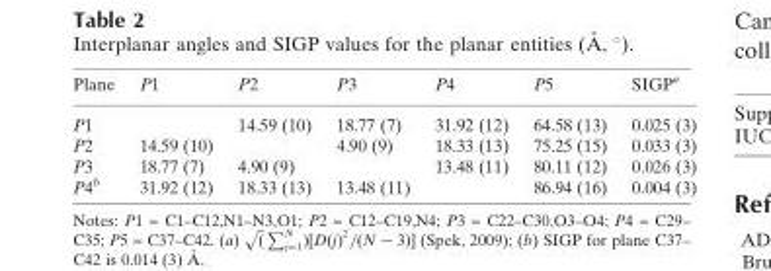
<table><thead><tr><td>Plane</td><td>P1</td><td>P2</td><td>P3</td><td>P4</td><td>P5</td><td>SIGP<sup>a</sup></td></tr></thead><tbody><tr><td>P1</td><td></td><td>14.59 (10)</td><td>18.77 (7)</td><td>31.92 (12)</td><td>64.58 (13)</td><td>0.025 (3)</td></tr><tr><td>P2</td><td>14.59 (10)</td><td></td><td>4.90 (9)</td><td>18.33 (13)</td><td>75.25 (15)</td><td>0.033 (3)</td></tr><tr><td>P3</td><td>18.77 (7)</td><td>4.90 (9)</td><td></td><td>13.48 (11)</td><td>80.11 (12)</td><td>0.026 (3)</td></tr><tr><td>P4<sup>b</sup></td><td>31.92 (12)</td><td>18.33 (13)</td><td>13.48 (11)</td><td></td><td>86.94 (16)</td><td>0.004 (3)</td></tr></tbody></table>